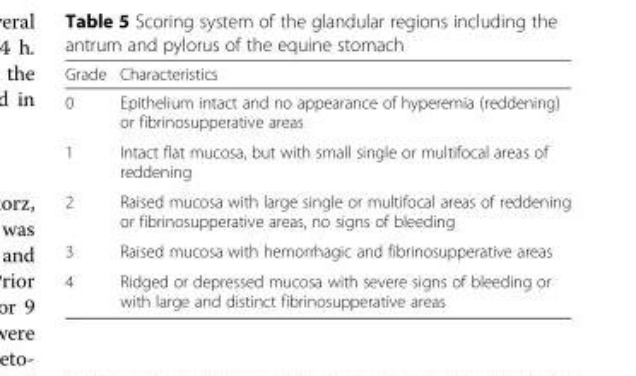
<table><thead><tr><td>Grade</td><td>Characteristics</td></tr></thead><tbody><tr><td>0</td><td>Epithelium intact and no appearance of hyperemia (reddening) or fibrinosupperative areas</td></tr><tr><td>1</td><td>Intact flat mucosa, but with small single or multifocal areas of reddening</td></tr><tr><td>2</td><td>Raised mucosa with large single or multifocal areas of reddening or fibrinosupperative areas, no signs of bleeding</td></tr><tr><td>3</td><td>Raised mucosa with hemorrhagic and fibrinosupperative areas</td></tr><tr><td>4</td><td>Ridged or depressed mucosa with severe signs of bleeding or with large and distinct fibrinosupperative areas</td></tr></tbody></table>